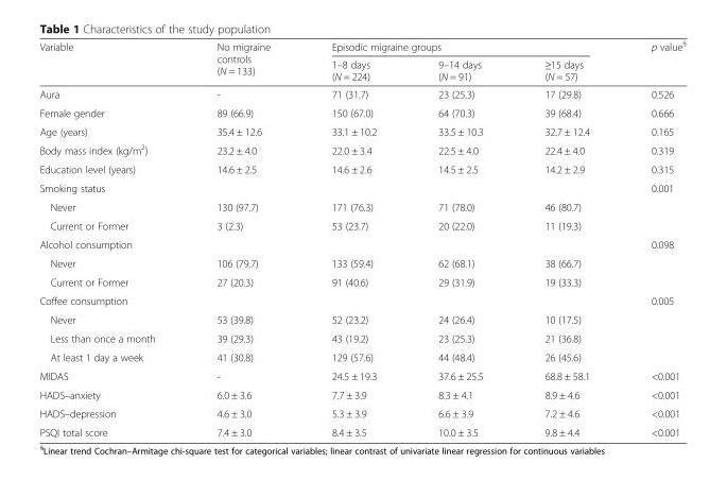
<table><thead><tr><td rowspan="2">Variable</td><td rowspan="2">No migraine controls (N = 133)</td><td colspan="3">Episodic migraine groups</td><td rowspan="2">p value<sup>§</sup></td></tr><tr><td>1–8 days (N = 224)</td><td>9–14 days (N = 91)</td><td>≥15 days (N = 57)</td></tr></thead><tbody><tr><td>Aura</td><td>-</td><td>71 (31.7)</td><td>23 (25.3)</td><td>17 (29.8)</td><td>0.526</td></tr><tr><td>Female gender</td><td>89 (66.9)</td><td>150 (67.0)</td><td>64 (70.3)</td><td>39 (68.4)</td><td>0.666</td></tr><tr><td>Age (years)</td><td>35.4 ± 12.6</td><td>33.1 ± 10.2</td><td>33.5 ± 10.3</td><td>32.7 ± 12.4</td><td>0.165</td></tr><tr><td>Body mass index (kg/m<sup>2</sup>)</td><td>23.2 ± 4.0</td><td>22.0 ± 3.4</td><td>22.5 ± 4.0</td><td>22.4 ± 4.0</td><td>0.319</td></tr><tr><td>Education level (years)</td><td>14.6 ± 2.5</td><td>14.6 ± 2.6</td><td>14.5 ± 2.5</td><td>14.2 ± 2.9</td><td>0.315</td></tr><tr><td>Smoking status</td><td></td><td></td><td></td><td></td><td>0.001</td></tr><tr><td>Never</td><td>130 (97.7)</td><td>171 (76.3)</td><td>71 (78.0)</td><td>46 (80.7)</td><td></td></tr><tr><td>Current or Former</td><td>3 (2.3)</td><td>53 (23.7)</td><td>20 (22.0)</td><td>11 (19.3)</td><td></td></tr><tr><td>Alcohol consumption</td><td></td><td></td><td></td><td></td><td>0.098</td></tr><tr><td>Never</td><td>106 (79.7)</td><td>133 (59.4)</td><td>62 (68.1)</td><td>38 (66.7)</td><td></td></tr><tr><td>Current or Former</td><td>27 (20.3)</td><td>91 (40.6)</td><td>29 (31.9)</td><td>19 (33.3)</td><td></td></tr><tr><td>Coffee consumption</td><td></td><td></td><td></td><td></td><td>0.005</td></tr><tr><td>Never</td><td>53 (39.8)</td><td>52 (23.2)</td><td>24 (26.4)</td><td>10 (17.5)</td><td></td></tr><tr><td>Less than once a month</td><td>39 (29.3)</td><td>43 (19.2)</td><td>23 (25.3)</td><td>21 (36.8)</td><td></td></tr><tr><td>At least 1 day a week</td><td>41 (30.8)</td><td>129 (57.6)</td><td>44 (48.4)</td><td>26 (45.6)</td><td></td></tr><tr><td>MIDAS</td><td>-</td><td>24.5 ± 19.3</td><td>37.6 ± 25.5</td><td>68.8 ± 58.1</td><td>&lt;0.001</td></tr><tr><td>HADS–anxiety</td><td>6.0 ± 3.6</td><td>7.7 ± 3.9</td><td>8.3 ± 4.1</td><td>8.9 ± 4.6</td><td>&lt;0.001</td></tr><tr><td>HADS–depression</td><td>4.6 ± 3.0</td><td>5.3 ± 3.9</td><td>6.6 ± 3.9</td><td>7.2 ± 4.6</td><td>&lt;0.001</td></tr><tr><td>PSQI total score</td><td>7.4 ± 3.0</td><td>8.4 ± 3.5</td><td>10.0 ± 3.5</td><td>9.8 ± 4.4</td><td>&lt;0.001</td></tr></tbody></table>